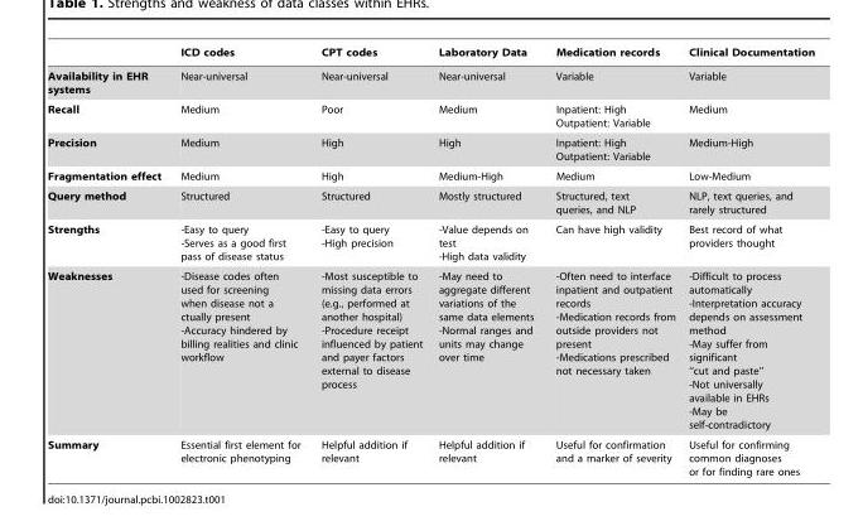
<table><thead><tr><td></td><td>ICD codes</td><td>CPT codes</td><td>Laboratory Data</td><td>Medication records</td><td>Clinical Documentation</td></tr></thead><tbody><tr><td>Availability in EHR systems</td><td>Near-universal</td><td>Near-universal</td><td>Near-universal</td><td>Variable</td><td>Variable</td></tr><tr><td>Recall</td><td>Medium</td><td>Poor</td><td>Medium</td><td>Inpatient: High Outpatient: Variable</td><td>Medium</td></tr><tr><td>Precision</td><td>Medium</td><td>High</td><td>High</td><td>Inpatient: High Outpatient: Variable</td><td>Medium-High</td></tr><tr><td>Fragmentation effect</td><td>Medium</td><td>High</td><td>Medium-High</td><td>Medium</td><td>Low-Medium</td></tr><tr><td>Query method</td><td>Structured</td><td>Structured</td><td>Mostly structured</td><td>Structured, text queries, and NLP</td><td>NLP, text queries, and rarely structured</td></tr><tr><td>Strengths</td><td>-Easy to query -Serves as a good first pass of disease status</td><td>-Easy to query -High precision</td><td>-Value depends on test -High data validity</td><td>Can have high validity</td><td>Best record of what providers thought</td></tr><tr><td>Weaknesses</td><td>-Disease codes often used for screening when disease not a ctually present -Accuracy hindered by billing realities and clinic workflow</td><td>-Most susceptible to missing data errors (e.g., performed at another hospital) -Procedure receipt influenced by patient and payer factors external to disease process</td><td>-May need to aggregate different variations of the same data elements -Normal ranges and units may change over time</td><td>-Often need to interface inpatient and outpatient records -Medication records from outside providers not present -Medications prescribed not necessary taken</td><td>-Difficult to process automatically -Interpretation accuracy depends on assessment method -May suffer from significant ‘‘cut and paste’’ -Not universally available in EHRs -May be self-contradictory</td></tr><tr><td>Summary</td><td>Essential first element for electronic phenotyping</td><td>Helpful addition if relevant</td><td>Helpful addition if relevant</td><td>Useful for confirmation and a marker of severity</td><td>Useful for confirming common diagnoses or for finding rare ones</td></tr></tbody></table>